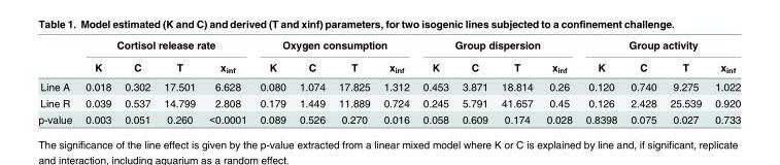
<table><thead><tr><td rowspan="2"></td><td colspan="4">Cortisol release rate</td><td colspan="4">Oxygen consumption</td><td colspan="4">Group dispersion</td><td colspan="4">Group activity</td></tr><tr><td>K</td><td>C</td><td>T</td><td>x<sub>inf</sub></td><td>K</td><td>C</td><td>T</td><td>x<sub>inf</sub></td><td>K</td><td>C</td><td>T</td><td>x<sub>inf</sub></td><td>K</td><td>C</td><td>T</td><td>x<sub>inf</sub></td></tr></thead><tbody><tr><td>Line A</td><td>0.018</td><td>0.302</td><td>17.501</td><td>6.628</td><td>0.080</td><td>1.074</td><td>17.825</td><td>1.312</td><td>0.453</td><td>3.871</td><td>18.814</td><td>0.26</td><td>0.120</td><td>0.740</td><td>9.275</td><td>1.022</td></tr><tr><td>Line R</td><td>0.039</td><td>0.537</td><td>14.799</td><td>2.808</td><td>0.179</td><td>1.449</td><td>11.889</td><td>0.724</td><td>0.245</td><td>5.791</td><td>41.657</td><td>0.45</td><td>0.126</td><td>2.428</td><td>25.539</td><td>0.920</td></tr><tr><td>p-value</td><td>0.003</td><td>0.051</td><td>0.260</td><td>&lt;0.0001</td><td>0.089</td><td>0.526</td><td>0.270</td><td>0.016</td><td>0.058</td><td>0.609</td><td>0.174</td><td>0.028</td><td>0.8398</td><td>0.075</td><td>0.027</td><td>0.733</td></tr></tbody></table>